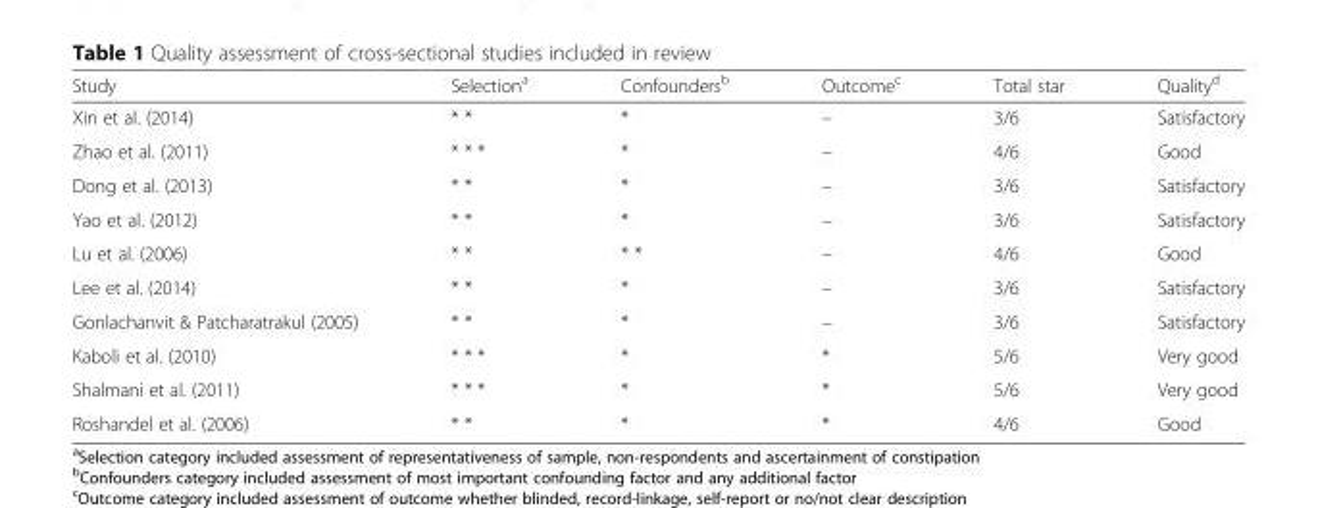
<table><thead><tr><td>Study</td><td>Selection<sup>a</sup></td><td>Confounders<sup>b</sup></td><td>Outcome<sup>c</sup></td><td>Total star</td><td>Quality<sup>d</sup></td></tr></thead><tbody><tr><td>Xin et al. (2014)</td><td>* *</td><td>*</td><td>–</td><td>3/6</td><td>Satisfactory</td></tr><tr><td>Zhao et al. (2011)</td><td>* * *</td><td>*</td><td>–</td><td>4/6</td><td>Good</td></tr><tr><td>Dong et al. (2013)</td><td>* *</td><td>*</td><td>–</td><td>3/6</td><td>Satisfactory</td></tr><tr><td>Yao et al. (2012)</td><td>* *</td><td>*</td><td>–</td><td>3/6</td><td>Satisfactory</td></tr><tr><td>Lu et al. (2006)</td><td>* *</td><td>* *</td><td>–</td><td>4/6</td><td>Good</td></tr><tr><td>Lee et al. (2014)</td><td>* *</td><td>*</td><td>–</td><td>3/6</td><td>Satisfactory</td></tr><tr><td>Gonlachanvit &amp; Patcharatrakul (2005)</td><td>* *</td><td>*</td><td>–</td><td>3/6</td><td>Satisfactory</td></tr><tr><td>Kaboli et al. (2010)</td><td>* * *</td><td>*</td><td>*</td><td>5/6</td><td>Very good</td></tr><tr><td>Shalmani et al. (2011)</td><td>* * *</td><td>*</td><td>*</td><td>5/6</td><td>Very good</td></tr><tr><td>Roshandel et al. (2006)</td><td>* *</td><td>*</td><td>*</td><td>4/6</td><td>Good</td></tr></tbody></table>